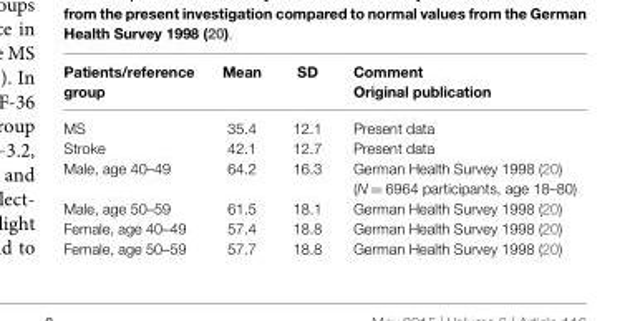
<table><thead><tr><td>Patients/reference group</td><td>Mean</td><td>SD</td><td>Comment Original publication</td></tr></thead><tbody><tr><td>MS</td><td>35.4</td><td>12.1</td><td>Present data</td></tr><tr><td>Stroke</td><td>42.1</td><td>12.7</td><td>Present data</td></tr><tr><td>Male, age 40–49</td><td>64.2</td><td>16.3</td><td>German Health Survey 1998 (20) (N = 6964 participants, age 18–80)</td></tr><tr><td>Male, age 50–59</td><td>61.5</td><td>18.1</td><td>German Health Survey 1998 (20)</td></tr><tr><td>Female, age 40–49</td><td>57.4</td><td>18.8</td><td>German Health Survey 1998 (20)</td></tr><tr><td>Female, age 50–59</td><td>57.7</td><td>18.8</td><td>German Health Survey 1998 (20)</td></tr></tbody></table>